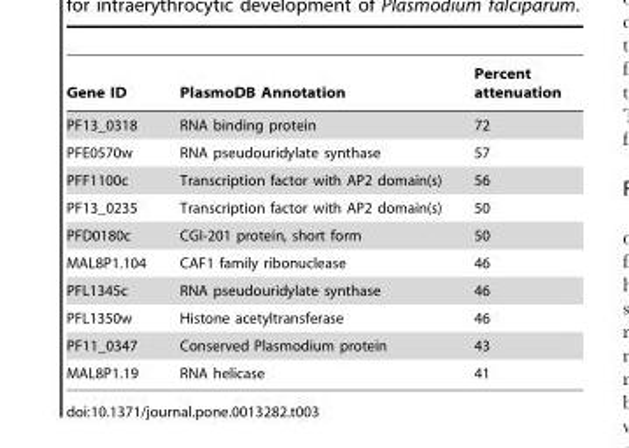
<table><thead><tr><td>Gene ID</td><td>PlasmoDB Annotation</td><td>Percent attenuation</td></tr></thead><tbody><tr><td>PF13_0318</td><td>RNA binding protein</td><td>72</td></tr><tr><td>PFE0570w</td><td>RNA pseudouridylate synthase</td><td>57</td></tr><tr><td>PFF1100c</td><td>Transcription factor with AP2 domain(s)</td><td>56</td></tr><tr><td>PF13_0235</td><td>Transcription factor with AP2 domain(s)</td><td>50</td></tr><tr><td>PFD0180c</td><td>CGI-201 protein, short form</td><td>50</td></tr><tr><td>MAL8P1.104</td><td>CAF1 family ribonuclease</td><td>46</td></tr><tr><td>PFL1345c</td><td>RNA pseudouridylate synthase</td><td>46</td></tr><tr><td>PFL1350w</td><td>Histone acetyltransferase</td><td>46</td></tr><tr><td>PF11_0347</td><td>Conserved Plasmodium protein</td><td>43</td></tr><tr><td>MAL8P1.19</td><td>RNA helicase</td><td>41</td></tr></tbody></table>